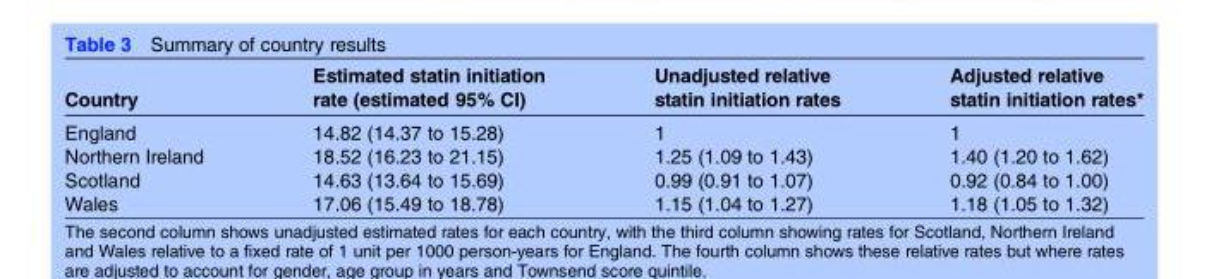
<table><thead><tr><td>Country</td><td>Estimated statin initiation rate (estimated 95% CI)</td><td>Unadjusted relative statin initiation rates</td><td>Adjusted relative statin initiation rates*</td></tr></thead><tbody><tr><td>England</td><td>14.82 (14.37 to 15.28)</td><td>1</td><td>1</td></tr><tr><td>Northern Ireland</td><td>18.52 (16.23 to 21.15)</td><td>1.25 (1.09 to 1.43)</td><td>1.40 (1.20 to 1.62)</td></tr><tr><td>Scotland</td><td>14.63 (13.64 to 15.69)</td><td>0.99 (0.91 to 1.07)</td><td>0.92 (0.84 to 1.00)</td></tr><tr><td>Wales</td><td>17.06 (15.49 to 18.78)</td><td>1.15 (1.04 to 1.27)</td><td>1.18 (1.05 to 1.32)</td></tr></tbody></table>